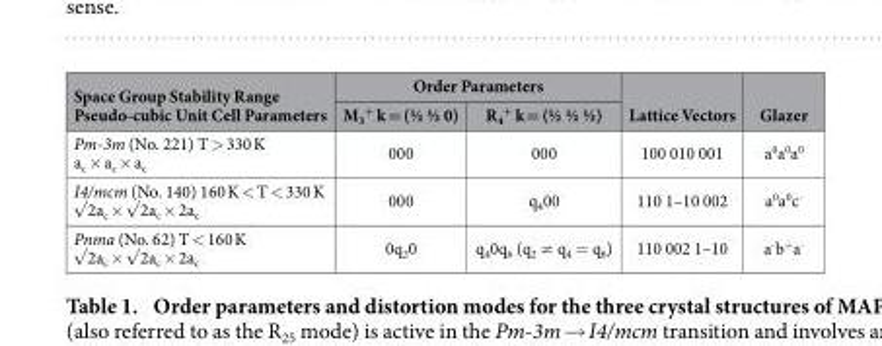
<table><thead><tr><td rowspan="2">Space Group Stability Range Pseudo-cubic Unit Cell Parameters</td><td colspan="2">Order Parameters</td><td rowspan="2">Lattice Vectors</td><td rowspan="2">Glazer</td></tr><tr><td>M<sub>3</sub> <sup>+</sup> k = (½ ½ 0)</td><td>R<sub>4</sub> <sup>+</sup> k = (½ ½ ½)</td></tr></thead><tbody><tr><td>Pm-3m (No. 221) T &gt; 330 K a<sub>c</sub> × a<sub>c</sub> × a<sub>c</sub></td><td>000</td><td>000</td><td>100 010 001</td><td>a<sup>0</sup>a<sup>0</sup>a<sup>0</sup></td></tr><tr><td>I4/mcm (No. 140) 160 K &lt; T &lt; 330 K √ 2a<sub>c</sub> × √ 2a<sub>c</sub> × 2a<sub>c</sub></td><td>000</td><td>q<sub>4</sub>00</td><td>110 1–10 002</td><td>a<sup>0</sup>a<sup>0</sup>c<sup>-</sup></td></tr><tr><td>Pnma (No. 62) T &lt; 160 K √ 2a<sub>c</sub> × √ 2a<sub>c</sub> × 2a<sub>c</sub></td><td>0q<sub>2</sub>0</td><td>q<sub>4</sub>0q<sub>6</sub> (q<sub>2</sub> ≠ q<sub>4</sub> = q<sub>6</sub>)</td><td>110 002 1–10</td><td>a<sup>-</sup>b<sup>+</sup>a<sup>-</sup></td></tr></tbody></table>